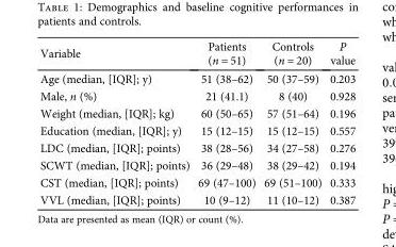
<table><thead><tr><td>Variable</td><td>Patients (n = 51)</td><td>Controls (n = 20)</td><td>P value</td></tr></thead><tbody><tr><td>Age (median, [IQR]; y)</td><td>51 (38–62)</td><td>50 (37–59)</td><td>0.203</td></tr><tr><td>Male, n (%)</td><td>21 (41.1)</td><td>8 (40)</td><td>0.928</td></tr><tr><td>Weight (median, [IQR]; kg)</td><td>60 (50–65)</td><td>57 (51–64)</td><td>0.196</td></tr><tr><td>Education (median, [IQR]; y)</td><td>15 (12–15)</td><td>15 (12–15)</td><td>0.557</td></tr><tr><td>LDC (median, [IQR]; points)</td><td>38 (28–56)</td><td>34 (27–58)</td><td>0.276</td></tr><tr><td>SCWT (median, [IQR]; points)</td><td>36 (29–48)</td><td>38 (29–42)</td><td>0.194</td></tr><tr><td>CST (median, [IQR]; points)</td><td>69 (47–100)</td><td>69 (51–100)</td><td>0.333</td></tr><tr><td>VVL (median, [IQR]; points)</td><td>10 (9–12)</td><td>11 (10–12)</td><td>0.387</td></tr></tbody></table>